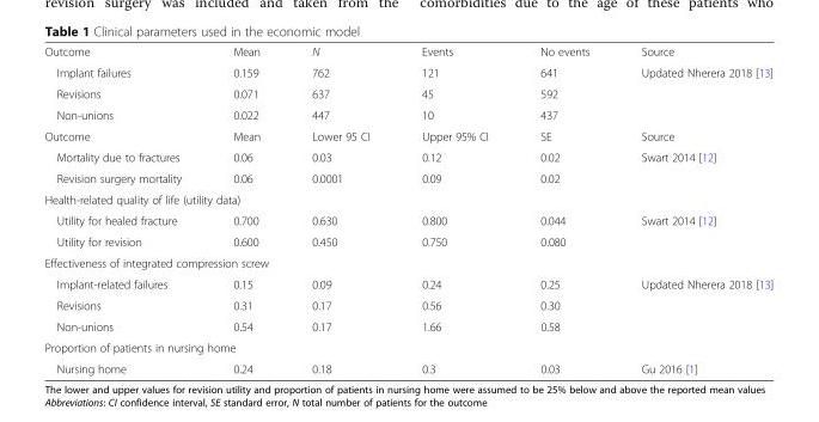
<table><tbody><tr><td>Outcome</td><td>Mean</td><td>N</td><td>Events</td><td>No events</td><td>Source</td></tr><tr><td>Implant failures</td><td>0.159</td><td>762</td><td>121</td><td>641</td><td rowspan="3">Updated Nherera 2018 [13]</td></tr><tr><td>Revisions</td><td>0.071</td><td>637</td><td>45</td><td>592</td></tr><tr><td>Non-unions</td><td>0.022</td><td>447</td><td>10</td><td>437</td></tr><tr><td>Outcome</td><td>Mean</td><td>Lower 95 CI</td><td>Upper 95% CI</td><td>SE</td><td>Source</td></tr><tr><td>Mortality due to fractures</td><td>0.06</td><td>0.03</td><td>0.12</td><td>0.02</td><td rowspan="2">Swart 2014 [12]</td></tr><tr><td>Revision surgery mortality</td><td>0.06</td><td>0.0001</td><td>0.09</td><td>0.02</td></tr><tr><td colspan="6">Health-related quality of life (utility data)</td></tr><tr><td>Utility for healed fracture</td><td>0.700</td><td>0.630</td><td>0.800</td><td>0.044</td><td rowspan="2">Swart 2014 [12]</td></tr><tr><td>Utility for revision</td><td>0.600</td><td>0.450</td><td>0.750</td><td>0.080</td></tr><tr><td colspan="6">Effectiveness of integrated compression screw</td></tr><tr><td>Implant-related failures</td><td>0.15</td><td>0.09</td><td>0.24</td><td>0.25</td><td rowspan="3">Updated Nherera 2018 [13]</td></tr><tr><td>Revisions</td><td>0.31</td><td>0.17</td><td>0.56</td><td>0.30</td></tr><tr><td>Non-unions</td><td>0.54</td><td>0.17</td><td>1.66</td><td>0.58</td></tr><tr><td colspan="6">Proportion of patients in nursing home</td></tr><tr><td>Nursing home</td><td>0.24</td><td>0.18</td><td>0.3</td><td>0.03</td><td>Gu 2016 [1]</td></tr></tbody></table>